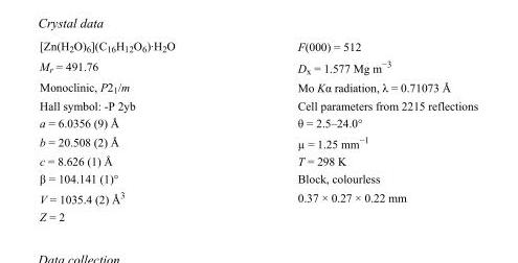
<table><tbody><tr><td>[Zn(H<sub>2</sub>O)<sub>6</sub>](C<sub>16</sub>H<sub>12</sub>O<sub>6</sub>)·H<sub>2</sub>O</td><td>F(000) = 512</td></tr><tr><td>M<sub>r</sub> = 491.76</td><td>D<sub>x</sub> = 1.577 Mg m<sup>−3</sup></td></tr><tr><td>Monoclinic, P2<sub>1</sub>/m</td><td>Mo Kα radiation, λ = 0.71073 Å</td></tr><tr><td>Hall symbol: -P 2yb</td><td>Cell parameters from 2215 reflections</td></tr><tr><td>a = 6.0356 (9) Å</td><td>θ = 2.5–24.0°</td></tr><tr><td>b = 20.508 (2) Å</td><td>µ = 1.25 mm<sup>−1</sup></td></tr><tr><td>c = 8.626 (1) Å</td><td>T = 298 K</td></tr><tr><td>β = 104.141 (1)°</td><td>Block, colourless</td></tr><tr><td>V = 1035.4 (2) Å<sup>3</sup></td><td>0.37 × 0.27 × 0.22 mm</td></tr><tr><td>Z = 2</td><td></td></tr></tbody></table>